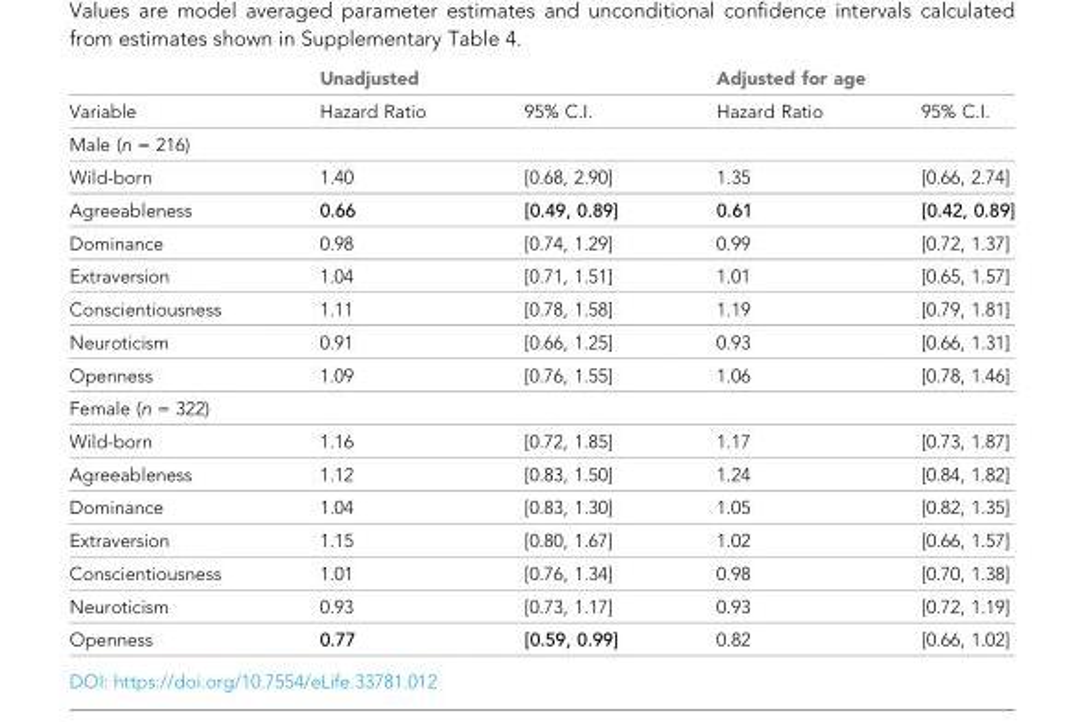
<table><thead><tr><td rowspan="2">Variable</td><td colspan="2">Unadjusted</td><td colspan="2">Adjusted for age</td></tr><tr><td>Hazard Ratio</td><td>95% C.I.</td><td>Hazard Ratio</td><td>95% C.I.</td></tr></thead><tbody><tr><td colspan="5">Male (n = 216)</td></tr><tr><td>Wild-born</td><td>1.40</td><td>[0.68, 2.90]</td><td>1.35</td><td>[0.66, 2.74]</td></tr><tr><td>Agreeableness</td><td>0.66</td><td>[0.49, 0.89]</td><td>0.61</td><td>[0.42, 0.89]</td></tr><tr><td>Dominance</td><td>0.98</td><td>[0.74, 1.29]</td><td>0.99</td><td>[0.72, 1.37]</td></tr><tr><td>Extraversion</td><td>1.04</td><td>[0.71, 1.51]</td><td>1.01</td><td>[0.65, 1.57]</td></tr><tr><td>Conscientiousness</td><td>1.11</td><td>[0.78, 1.58]</td><td>1.19</td><td>[0.79, 1.81]</td></tr><tr><td>Neuroticism</td><td>0.91</td><td>[0.66, 1.25]</td><td>0.93</td><td>[0.66, 1.31]</td></tr><tr><td>Openness</td><td>1.09</td><td>[0.76, 1.55]</td><td>1.06</td><td>[0.78, 1.46]</td></tr><tr><td colspan="5">Female (n = 322)</td></tr><tr><td>Wild-born</td><td>1.16</td><td>[0.72, 1.85]</td><td>1.17</td><td>[0.73, 1.87]</td></tr><tr><td>Agreeableness</td><td>1.12</td><td>[0.83, 1.50]</td><td>1.24</td><td>[0.84, 1.82]</td></tr><tr><td>Dominance</td><td>1.04</td><td>[0.83, 1.30]</td><td>1.05</td><td>[0.82, 1.35]</td></tr><tr><td>Extraversion</td><td>1.15</td><td>[0.80, 1.67]</td><td>1.02</td><td>[0.66, 1.57]</td></tr><tr><td>Conscientiousness</td><td>1.01</td><td>[0.76, 1.34]</td><td>0.98</td><td>[0.70, 1.38]</td></tr><tr><td>Neuroticism</td><td>0.93</td><td>[0.73, 1.17]</td><td>0.93</td><td>[0.72, 1.19]</td></tr><tr><td>Openness</td><td>0.77</td><td>[0.59, 0.99]</td><td>0.82</td><td>[0.66, 1.02]</td></tr></tbody></table>